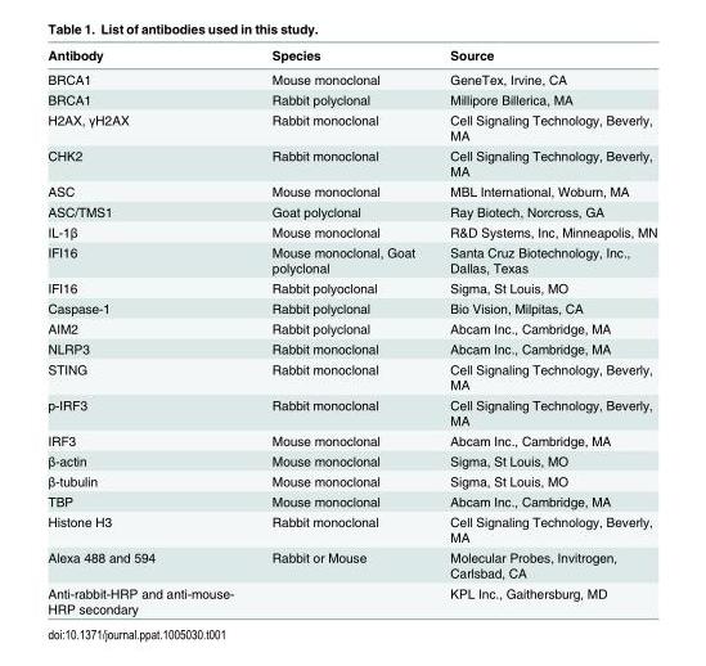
<table><thead><tr><td>Antibody</td><td>Species</td><td>Source</td></tr></thead><tbody><tr><td>BRCA1</td><td>Mouse monoclonal</td><td>GeneTex, Irvine, CA</td></tr><tr><td>BRCA1</td><td>Rabbit polyclonal</td><td>Millipore Billerica, MA</td></tr><tr><td>H2AX, γH2AX</td><td>Rabbit monoclonal</td><td>Cell Signaling Technology, Beverly, MA</td></tr><tr><td>CHK2</td><td>Rabbit monoclonal</td><td>Cell Signaling Technology, Beverly, MA</td></tr><tr><td>ASC</td><td>Mouse monoclonal</td><td>MBL International, Woburn, MA</td></tr><tr><td>ASC/TMS1</td><td>Goat polyclonal</td><td>Ray Biotech, Norcross, GA</td></tr><tr><td>IL-1β</td><td>Mouse monoclonal</td><td>R&amp;D Systems, Inc, Minneapolis, MN</td></tr><tr><td>IFI16</td><td>Mouse monoclonal, Goat polyclonal</td><td>Santa Cruz Biotechnology, Inc., Dallas, Texas</td></tr><tr><td>IFI16</td><td>Rabbit polyoclonal</td><td>Sigma, St Louis, MO</td></tr><tr><td>Caspase-1</td><td>Rabbit polyclonal</td><td>Bio Vision, Milpitas, CA</td></tr><tr><td>AIM2</td><td>Rabbit polyclonal</td><td>Abcam Inc., Cambridge, MA</td></tr><tr><td>NLRP3</td><td>Rabbit monoclonal</td><td>Abcam Inc., Cambridge, MA</td></tr><tr><td>STING</td><td>Rabbit monoclonal</td><td>Cell Signaling Technology, Beverly, MA</td></tr><tr><td>p-IRF3</td><td>Rabbit monoclonal</td><td>Cell Signaling Technology, Beverly, MA</td></tr><tr><td>IRF3</td><td>Mouse monoclonal</td><td>Abcam Inc., Cambridge, MA</td></tr><tr><td>β-actin</td><td>Mouse monoclonal</td><td>Sigma, St Louis, MO</td></tr><tr><td>β-tubulin</td><td>Mouse monoclonal</td><td>Sigma, St Louis, MO</td></tr><tr><td>TBP</td><td>Mouse monoclonal</td><td>Abcam Inc., Cambridge, MA</td></tr><tr><td>Histone H3</td><td>Rabbit monoclonal</td><td>Cell Signaling Technology, Beverly, MA</td></tr><tr><td>Alexa 488 and 594</td><td>Rabbit or Mouse</td><td>Molecular Probes, Invitrogen, Carlsbad, CA</td></tr><tr><td>Anti-rabbit-HRP and anti-mouse- HRP secondary</td><td></td><td>KPL Inc., Gaithersburg, MD</td></tr></tbody></table>